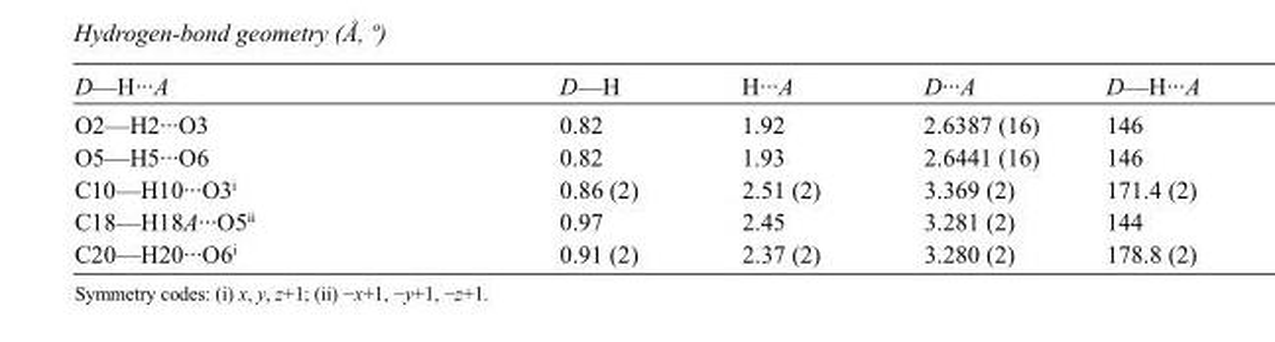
<table><tbody><tr><td>D—H···A</td><td>D—H</td><td>H···A</td><td>D···A</td><td>D—H···A</td></tr><tr><td>O2—H2···O3</td><td>0.82</td><td>1.92</td><td>2.6387 (16)</td><td>146</td></tr><tr><td>O5—H5···O6</td><td>0.82</td><td>1.93</td><td>2.6441 (16)</td><td>146</td></tr><tr><td>C10—H10···O3<sup>i</sup></td><td>0.86 (2)</td><td>2.51 (2)</td><td>3.369 (2)</td><td>171.4 (2)</td></tr><tr><td>C18—H18A···O5<sup>ii</sup></td><td>0.97</td><td>2.45</td><td>3.281 (2)</td><td>144</td></tr><tr><td>C20—H20···O6<sup>i</sup></td><td>0.91 (2)</td><td>2.37 (2)</td><td>3.280 (2)</td><td>178.8 (2)</td></tr></tbody></table>